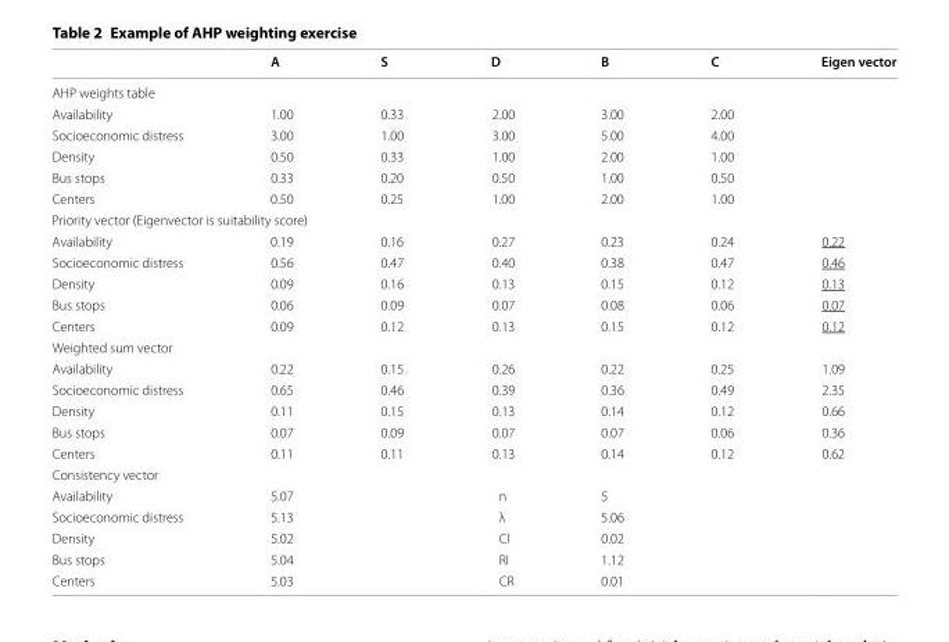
<table><thead><tr><td></td><td>A</td><td>S</td><td>D</td><td>B</td><td>C</td><td>Eigen vector</td></tr></thead><tbody><tr><td colspan="7">AHP weights table</td></tr><tr><td>Availability</td><td>1.00</td><td>0.33</td><td>2.00</td><td>3.00</td><td>2.00</td><td></td></tr><tr><td>Socioeconomic distress</td><td>3.00</td><td>1.00</td><td>3.00</td><td>5.00</td><td>4.00</td><td></td></tr><tr><td>Density</td><td>0.50</td><td>0.33</td><td>1.00</td><td>2.00</td><td>1.00</td><td></td></tr><tr><td>Bus stops</td><td>0.33</td><td>0.20</td><td>0.50</td><td>1.00</td><td>0.50</td><td></td></tr><tr><td>Centers</td><td>0.50</td><td>0.25</td><td>1.00</td><td>2.00</td><td>1.00</td><td></td></tr><tr><td colspan="7">Priority vector (Eigenvector is suitability score)</td></tr><tr><td>Availability</td><td>0.19</td><td>0.16</td><td>0.27</td><td>0.23</td><td>0.24</td><td>0.22</td></tr><tr><td>Socioeconomic distress</td><td>0.56</td><td>0.47</td><td>0.40</td><td>0.38</td><td>0.47</td><td>0.46</td></tr><tr><td>Density</td><td>0.09</td><td>0.16</td><td>0.13</td><td>0.15</td><td>0.12</td><td>0.13</td></tr><tr><td>Bus stops</td><td>0.06</td><td>0.09</td><td>0.07</td><td>0.08</td><td>0.06</td><td>0.07</td></tr><tr><td>Centers</td><td>0.09</td><td>0.12</td><td>0.13</td><td>0.15</td><td>0.12</td><td>0.12</td></tr><tr><td colspan="7">Weighted sum vector</td></tr><tr><td>Availability</td><td>0.22</td><td>0.15</td><td>0.26</td><td>0.22</td><td>0.25</td><td>1.09</td></tr><tr><td>Socioeconomic distress</td><td>0.65</td><td>0.46</td><td>0.39</td><td>0.36</td><td>0.49</td><td>2.35</td></tr><tr><td>Density</td><td>0.11</td><td>0.15</td><td>0.13</td><td>0.14</td><td>0.12</td><td>0.66</td></tr><tr><td>Bus stops</td><td>0.07</td><td>0.09</td><td>0.07</td><td>0.07</td><td>0.06</td><td>0.36</td></tr><tr><td>Centers</td><td>0.11</td><td>0.11</td><td>0.13</td><td>0.14</td><td>0.12</td><td>0.62</td></tr><tr><td colspan="7">Consistency vector</td></tr><tr><td>Availability</td><td>5.07</td><td></td><td>n</td><td>5</td><td></td><td></td></tr><tr><td>Socioeconomic distress</td><td>5.13</td><td></td><td>λ</td><td>5.06</td><td></td><td></td></tr><tr><td>Density</td><td>5.02</td><td></td><td>CI</td><td>0.02</td><td></td><td></td></tr><tr><td>Bus stops</td><td>5.04</td><td></td><td>RI</td><td>1.12</td><td></td><td></td></tr><tr><td>Centers</td><td>5.03</td><td></td><td>CR</td><td>0.01</td><td></td><td></td></tr></tbody></table>